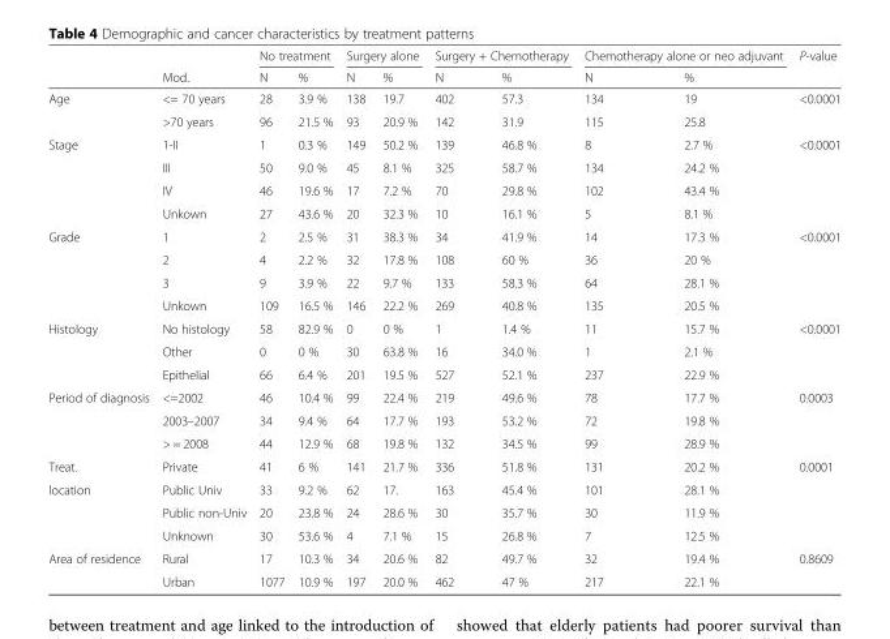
<table><thead><tr><td rowspan="2"></td><td rowspan="2">Mod.</td><td colspan="2">No treatment</td><td colspan="2">Surgery alone</td><td colspan="2">Surgery + Chemotherapy</td><td colspan="2">Chemotherapy alone or neo adjuvant</td><td rowspan="2">P-value</td></tr><tr><td>N</td><td>%</td><td>N</td><td>%</td><td>N</td><td>%</td><td>N</td><td>%</td></tr></thead><tbody><tr><td rowspan="2">Age</td><td>&lt;= 70 years</td><td>28</td><td>3.9 %</td><td>138</td><td>19.7</td><td>402</td><td>57.3</td><td>134</td><td>19</td><td rowspan="2">&lt;0.0001</td></tr><tr><td>&gt;70 years</td><td>96</td><td>21.5 %</td><td>93</td><td>20.9 %</td><td>142</td><td>31.9</td><td>115</td><td>25.8</td></tr><tr><td rowspan="4">Stage</td><td>1-II</td><td>1</td><td>0.3 %</td><td>149</td><td>50.2 %</td><td>139</td><td>46.8 %</td><td>8</td><td>2.7 %</td><td rowspan="4">&lt;0.0001</td></tr><tr><td>III</td><td>50</td><td>9.0 %</td><td>45</td><td>8.1 %</td><td>325</td><td>58.7 %</td><td>134</td><td>24.2 %</td></tr><tr><td>IV</td><td>46</td><td>19.6 %</td><td>17</td><td>7.2 %</td><td>70</td><td>29.8 %</td><td>102</td><td>43.4 %</td></tr><tr><td>Unkown</td><td>27</td><td>43.6 %</td><td>20</td><td>32.3 %</td><td>10</td><td>16.1 %</td><td>5</td><td>8.1 %</td></tr><tr><td rowspan="4">Grade</td><td>1</td><td>2</td><td>2.5 %</td><td>31</td><td>38.3 %</td><td>34</td><td>41.9 %</td><td>14</td><td>17.3 %</td><td rowspan="4">&lt;0.0001</td></tr><tr><td>2</td><td>4</td><td>2.2 %</td><td>32</td><td>17.8 %</td><td>108</td><td>60 %</td><td>36</td><td>20 %</td></tr><tr><td>3</td><td>9</td><td>3.9 %</td><td>22</td><td>9.7 %</td><td>133</td><td>58.3 %</td><td>64</td><td>28.1 %</td></tr><tr><td>Unkown</td><td>109</td><td>16.5 %</td><td>146</td><td>22.2 %</td><td>269</td><td>40.8 %</td><td>135</td><td>20.5 %</td></tr><tr><td rowspan="3">Histology</td><td>No histology</td><td>58</td><td>82.9 %</td><td>0</td><td>0 %</td><td>1</td><td>1.4 %</td><td>11</td><td>15.7 %</td><td rowspan="3">&lt;0.0001</td></tr><tr><td>Other</td><td>0</td><td>0 %</td><td>30</td><td>63.8 %</td><td>16</td><td>34.0 %</td><td>1</td><td>2.1 %</td></tr><tr><td>Epithelial</td><td>66</td><td>6.4 %</td><td>201</td><td>19.5 %</td><td>527</td><td>52.1 %</td><td>237</td><td>22.9 %</td></tr><tr><td rowspan="3">Period of diagnosis</td><td>&lt;=2002</td><td>46</td><td>10.4 %</td><td>99</td><td>22.4 %</td><td>219</td><td>49.6 %</td><td>78</td><td>17.7 %</td><td rowspan="3">0.0003</td></tr><tr><td>2003–2007</td><td>34</td><td>9.4 %</td><td>64</td><td>17.7 %</td><td>193</td><td>53.2 %</td><td>72</td><td>19.8 %</td></tr><tr><td>&gt; = 2008</td><td>44</td><td>12.9 %</td><td>68</td><td>19.8 %</td><td>132</td><td>34.5 %</td><td>99</td><td>28.9 %</td></tr><tr><td>Treat.</td><td>Private</td><td>41</td><td>6 %</td><td>141</td><td>21.7 %</td><td>336</td><td>51.8 %</td><td>131</td><td>20.2 %</td><td rowspan="4">0.0001</td></tr><tr><td rowspan="3">location</td><td>Public Univ</td><td>33</td><td>9.2 %</td><td>62</td><td>17.</td><td>163</td><td>45.4 %</td><td>101</td><td>28.1 %</td></tr><tr><td>Public non-Univ</td><td>20</td><td>23.8 %</td><td>24</td><td>28.6 %</td><td>30</td><td>35.7 %</td><td>30</td><td>11.9 %</td></tr><tr><td>Unknown</td><td>30</td><td>53.6 %</td><td>4</td><td>7.1 %</td><td>15</td><td>26.8 %</td><td>7</td><td>12.5 %</td></tr><tr><td rowspan="2">Area of residence</td><td>Rural</td><td>17</td><td>10.3 %</td><td>34</td><td>20.6 %</td><td>82</td><td>49.7 %</td><td>32</td><td>19.4 %</td><td rowspan="2">0.8609</td></tr><tr><td>Urban</td><td>1077</td><td>10.9 %</td><td>197</td><td>20.0 %</td><td>462</td><td>47 %</td><td>217</td><td>22.1 %</td></tr></tbody></table>